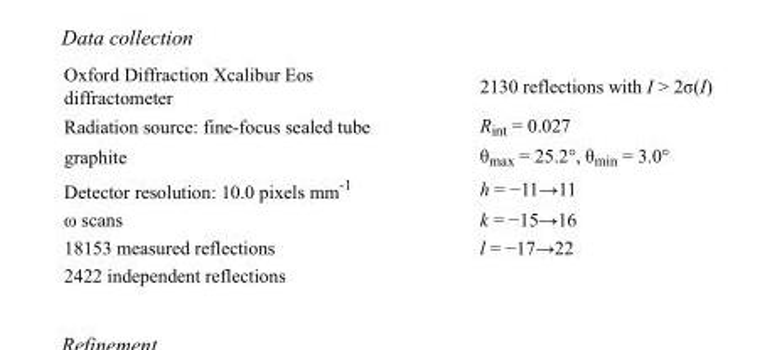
<table><tbody><tr><td>Oxford Diffraction Xcalibur Eos diffractometer</td><td>2130 reflections with I &gt; 2σ(I)</td></tr><tr><td>Radiation source: fine-focus sealed tube</td><td>R<sub>int</sub> = 0.027</td></tr><tr><td>graphite</td><td>θ<sub>max</sub> = 25.2°, θ<sub>min</sub> = 3.0°</td></tr><tr><td>Detector resolution: 10.0 pixels mm<sup>-1</sup></td><td>h = −11→11</td></tr><tr><td>ω scans</td><td>k = −15→16</td></tr><tr><td>18153 measured reflections</td><td>l = −17→22</td></tr><tr><td>2422 independent reflections</td><td></td></tr></tbody></table>